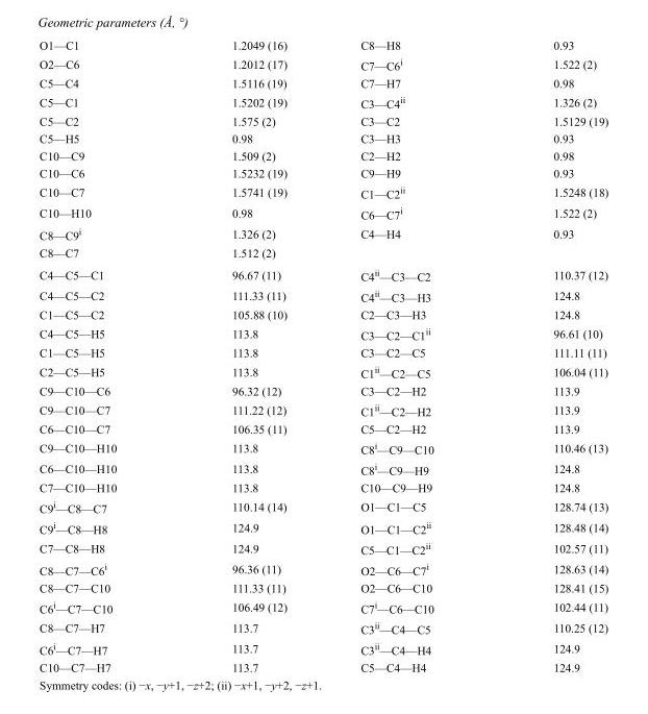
<table><tbody><tr><td>O1—C1</td><td>1.2049 (16)</td><td>C8—H8</td><td>0.93</td></tr><tr><td>O2—C6</td><td>1.2012 (17)</td><td>C7—C6<sup>i</sup></td><td>1.522 (2)</td></tr><tr><td>C5—C4</td><td>1.5116 (19)</td><td>C7—H7</td><td>0.98</td></tr><tr><td>C5—C1</td><td>1.5202 (19)</td><td>C3—C4<sup>ii</sup></td><td>1.326 (2)</td></tr><tr><td>C5—C2</td><td>1.575 (2)</td><td>C3—C2</td><td>1.5129 (19)</td></tr><tr><td>C5—H5</td><td>0.98</td><td>C3—H3</td><td>0.93</td></tr><tr><td>C10—C9</td><td>1.509 (2)</td><td>C2—H2</td><td>0.98</td></tr><tr><td>C10—C6</td><td>1.5232 (19)</td><td>C9—H9</td><td>0.93</td></tr><tr><td>C10—C7</td><td>1.5741 (19)</td><td>C1—C2<sup>ii</sup></td><td>1.5248 (18)</td></tr><tr><td>C10—H10</td><td>0.98</td><td>C6—C7<sup>i</sup></td><td>1.522 (2)</td></tr><tr><td>C8—C9<sup>i</sup></td><td>1.326 (2)</td><td>C4—H4</td><td>0.93</td></tr><tr><td>C8—C7</td><td>1.512 (2)</td><td></td><td></td></tr><tr><td>C4—C5—C1</td><td>96.67 (11)</td><td>C4<sup>ii</sup>—C3—C2</td><td>110.37 (12)</td></tr><tr><td>C4—C5—C2</td><td>111.33 (11)</td><td>C4<sup>ii</sup>—C3—H3</td><td>124.8</td></tr><tr><td>C1—C5—C2</td><td>105.88 (10)</td><td>C2—C3—H3</td><td>124.8</td></tr><tr><td>C4—C5—H5</td><td>113.8</td><td>C3—C2—C1<sup>ii</sup></td><td>96.61 (10)</td></tr><tr><td>C1—C5—H5</td><td>113.8</td><td>C3—C2—C5</td><td>111.11 (11)</td></tr><tr><td>C2—C5—H5</td><td>113.8</td><td>C1<sup>ii</sup>—C2—C5</td><td>106.04 (11)</td></tr><tr><td>C9—C10—C6</td><td>96.32 (12)</td><td>C3—C2—H2</td><td>113.9</td></tr><tr><td>C9—C10—C7</td><td>111.22 (12)</td><td>C1<sup>ii</sup>—C2—H2</td><td>113.9</td></tr><tr><td>C6—C10—C7</td><td>106.35 (11)</td><td>C5—C2—H2</td><td>113.9</td></tr><tr><td>C9—C10—H10</td><td>113.8</td><td>C8<sup>i</sup>—C9—C10</td><td>110.46 (13)</td></tr><tr><td>C6—C10—H10</td><td>113.8</td><td>C8<sup>i</sup>—C9—H9</td><td>124.8</td></tr><tr><td>C7—C10—H10</td><td>113.8</td><td>C10—C9—H9</td><td>124.8</td></tr><tr><td>C9<sup>i</sup>—C8—C7</td><td>110.14 (14)</td><td>O1—C1—C5</td><td>128.74 (13)</td></tr><tr><td>C9<sup>i</sup>—C8—H8</td><td>124.9</td><td>O1—C1—C2<sup>ii</sup></td><td>128.48 (14)</td></tr><tr><td>C7—C8—H8</td><td>124.9</td><td>C5—C1—C2<sup>ii</sup></td><td>102.57 (11)</td></tr><tr><td>C8—C7—C6<sup>i</sup></td><td>96.36 (11)</td><td>O2—C6—C7<sup>i</sup></td><td>128.63 (14)</td></tr><tr><td>C8—C7—C10</td><td>111.33 (11)</td><td>O2—C6—C10</td><td>128.41 (15)</td></tr><tr><td>C6<sup>i</sup>—C7—C10</td><td>106.49 (12)</td><td>C7<sup>i</sup>—C6—C10</td><td>102.44 (11)</td></tr><tr><td>C8—C7—H7</td><td>113.7</td><td>C3<sup>ii</sup>—C4—C5</td><td>110.25 (12)</td></tr><tr><td>C6<sup>i</sup>—C7—H7</td><td>113.7</td><td>C3<sup>ii</sup>—C4—H4</td><td>124.9</td></tr><tr><td>C10—C7—H7</td><td>113.7</td><td>C5—C4—H4</td><td>124.9</td></tr></tbody></table>